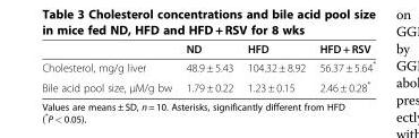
<table><thead><tr><td></td><td>ND</td><td>HFD</td><td>HFD + RSV</td></tr></thead><tbody><tr><td>Cholesterol, mg/g liver</td><td>48.9 ± 5.43</td><td>104.32 ± 8.92</td><td>56.37 ± 5.64*</td></tr><tr><td>Bile acid pool size, μM/g bw</td><td>1.79 ± 0.22</td><td>1.23 ± 0.15</td><td>2.46 ± 0.28*</td></tr></tbody></table>